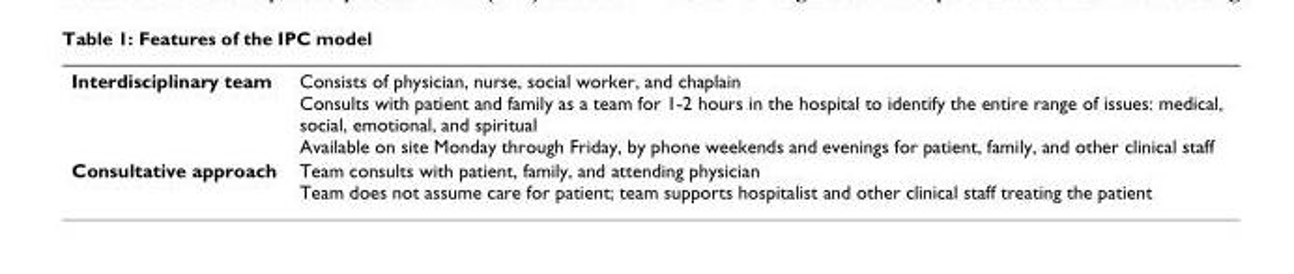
<table><tbody><tr><td>Interdisciplinary team</td><td>Consists of physician, nurse, social worker, and chaplain Consults with patient and family as a team for 1-2 hours in the hospital to identify the entire range of issues: medical, social, emotional, and spiritual Available on site Monday through Friday, by phone weekends and evenings for patient, family, and other clinical staff</td></tr><tr><td>Consultative approach</td><td>Team consults with patient, family, and attending physician Team does not assume care for patient; team supports hospitalist and other clinical staff treating the patient</td></tr></tbody></table>